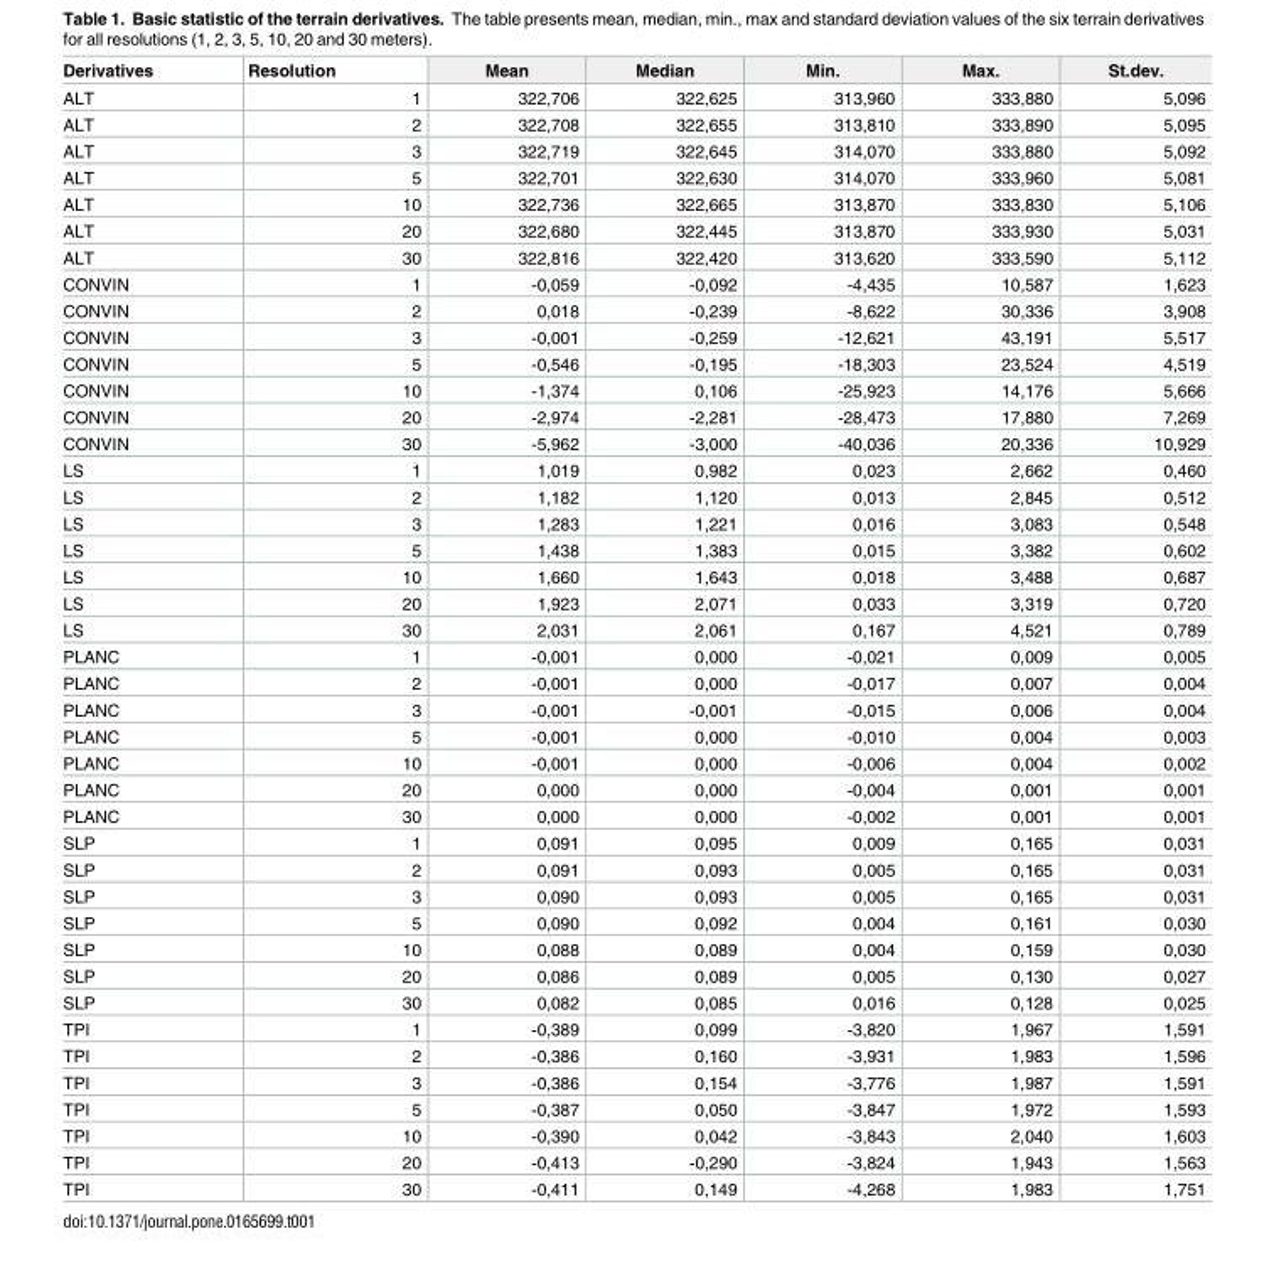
<table><thead><tr><td>Derivatives</td><td>Resolution</td><td>Mean</td><td>Median</td><td>Min.</td><td>Max.</td><td>St.dev.</td></tr></thead><tbody><tr><td>ALT</td><td>1</td><td>322,706</td><td>322,625</td><td>313,960</td><td>333,880</td><td>5,096</td></tr><tr><td>ALT</td><td>2</td><td>322,708</td><td>322,655</td><td>313,810</td><td>333,890</td><td>5,095</td></tr><tr><td>ALT</td><td>3</td><td>322,719</td><td>322,645</td><td>314,070</td><td>333,880</td><td>5,092</td></tr><tr><td>ALT</td><td>5</td><td>322,701</td><td>322,630</td><td>314,070</td><td>333,960</td><td>5,081</td></tr><tr><td>ALT</td><td>10</td><td>322,736</td><td>322,665</td><td>313,870</td><td>333,830</td><td>5,106</td></tr><tr><td>ALT</td><td>20</td><td>322,680</td><td>322,445</td><td>313,870</td><td>333,930</td><td>5,031</td></tr><tr><td>ALT</td><td>30</td><td>322,816</td><td>322,420</td><td>313,620</td><td>333,590</td><td>5,112</td></tr><tr><td>CONVIN</td><td>1</td><td>-0,059</td><td>-0,092</td><td>-4,435</td><td>10,587</td><td>1,623</td></tr><tr><td>CONVIN</td><td>2</td><td>0,018</td><td>-0,239</td><td>-8,622</td><td>30,336</td><td>3,908</td></tr><tr><td>CONVIN</td><td>3</td><td>-0,001</td><td>-0,259</td><td>-12,621</td><td>43,191</td><td>5,517</td></tr><tr><td>CONVIN</td><td>5</td><td>-0,546</td><td>-0,195</td><td>-18,303</td><td>23,524</td><td>4,519</td></tr><tr><td>CONVIN</td><td>10</td><td>-1,374</td><td>0,106</td><td>-25,923</td><td>14,176</td><td>5,666</td></tr><tr><td>CONVIN</td><td>20</td><td>-2,974</td><td>-2,281</td><td>-28,473</td><td>17,880</td><td>7,269</td></tr><tr><td>CONVIN</td><td>30</td><td>-5,962</td><td>-3,000</td><td>-40,036</td><td>20,336</td><td>10,929</td></tr><tr><td>LS</td><td>1</td><td>1,019</td><td>0,982</td><td>0,023</td><td>2,662</td><td>0,460</td></tr><tr><td>LS</td><td>2</td><td>1,182</td><td>1,120</td><td>0,013</td><td>2,845</td><td>0,512</td></tr><tr><td>LS</td><td>3</td><td>1,283</td><td>1,221</td><td>0,016</td><td>3,083</td><td>0,548</td></tr><tr><td>LS</td><td>5</td><td>1,438</td><td>1,383</td><td>0,015</td><td>3,382</td><td>0,602</td></tr><tr><td>LS</td><td>10</td><td>1,660</td><td>1,643</td><td>0,018</td><td>3,488</td><td>0,687</td></tr><tr><td>LS</td><td>20</td><td>1,923</td><td>2,071</td><td>0,033</td><td>3,319</td><td>0,720</td></tr><tr><td>LS</td><td>30</td><td>2,031</td><td>2,061</td><td>0,167</td><td>4,521</td><td>0,789</td></tr><tr><td>PLANC</td><td>1</td><td>-0,001</td><td>0,000</td><td>-0,021</td><td>0,009</td><td>0,005</td></tr><tr><td>PLANC</td><td>2</td><td>-0,001</td><td>0,000</td><td>-0,017</td><td>0,007</td><td>0,004</td></tr><tr><td>PLANC</td><td>3</td><td>-0,001</td><td>-0,001</td><td>-0,015</td><td>0,006</td><td>0,004</td></tr><tr><td>PLANC</td><td>5</td><td>-0,001</td><td>0,000</td><td>-0,010</td><td>0,004</td><td>0,003</td></tr><tr><td>PLANC</td><td>10</td><td>-0,001</td><td>0,000</td><td>-0,006</td><td>0,004</td><td>0,002</td></tr><tr><td>PLANC</td><td>20</td><td>0,000</td><td>0,000</td><td>-0,004</td><td>0,001</td><td>0,001</td></tr><tr><td>PLANC</td><td>30</td><td>0,000</td><td>0,000</td><td>-0,002</td><td>0,001</td><td>0,001</td></tr><tr><td>SLP</td><td>1</td><td>0,091</td><td>0,095</td><td>0,009</td><td>0,165</td><td>0,031</td></tr><tr><td>SLP</td><td>2</td><td>0,091</td><td>0,093</td><td>0,005</td><td>0,165</td><td>0,031</td></tr><tr><td>SLP</td><td>3</td><td>0,090</td><td>0,093</td><td>0,005</td><td>0,165</td><td>0,031</td></tr><tr><td>SLP</td><td>5</td><td>0,090</td><td>0,092</td><td>0,004</td><td>0,161</td><td>0,030</td></tr><tr><td>SLP</td><td>10</td><td>0,088</td><td>0,089</td><td>0,004</td><td>0,159</td><td>0,030</td></tr><tr><td>SLP</td><td>20</td><td>0,086</td><td>0,089</td><td>0,005</td><td>0,130</td><td>0,027</td></tr><tr><td>SLP</td><td>30</td><td>0,082</td><td>0,085</td><td>0,016</td><td>0,128</td><td>0,025</td></tr><tr><td>TPI</td><td>1</td><td>-0,389</td><td>0,099</td><td>-3,820</td><td>1,967</td><td>1,591</td></tr><tr><td>TPI</td><td>2</td><td>-0,386</td><td>0,160</td><td>-3,931</td><td>1,983</td><td>1,596</td></tr><tr><td>TPI</td><td>3</td><td>-0,386</td><td>0,154</td><td>-3,776</td><td>1,987</td><td>1,591</td></tr><tr><td>TPI</td><td>5</td><td>-0,387</td><td>0,050</td><td>-3,847</td><td>1,972</td><td>1,593</td></tr><tr><td>TPI</td><td>10</td><td>-0,390</td><td>0,042</td><td>-3,843</td><td>2,040</td><td>1,603</td></tr><tr><td>TPI</td><td>20</td><td>-0,413</td><td>-0,290</td><td>-3,824</td><td>1,943</td><td>1,563</td></tr><tr><td>TPI</td><td>30</td><td>-0,411</td><td>0,149</td><td>-4,268</td><td>1,983</td><td>1,751</td></tr></tbody></table>